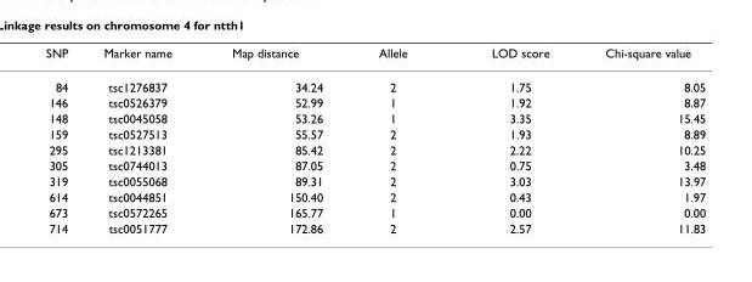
<table><thead><tr><td>SNP</td><td>Marker name</td><td>Map distance</td><td>Allele</td><td>LOD score</td><td>Chi-square value</td></tr></thead><tbody><tr><td>84</td><td>tsc1276837</td><td>34.24</td><td>2</td><td>1.75</td><td>8.05</td></tr><tr><td>146</td><td>tsc0526379</td><td>52.99</td><td>1</td><td>1.92</td><td>8.87</td></tr><tr><td>148</td><td>tsc0045058</td><td>53.26</td><td>1</td><td>3.35</td><td>15.45</td></tr><tr><td>159</td><td>tsc0527513</td><td>55.57</td><td>2</td><td>1.93</td><td>8.89</td></tr><tr><td>295</td><td>tsc1213381</td><td>85.42</td><td>2</td><td>2.22</td><td>10.25</td></tr><tr><td>305</td><td>tsc0744013</td><td>87.05</td><td>2</td><td>0.75</td><td>3.48</td></tr><tr><td>319</td><td>tsc0055068</td><td>89.31</td><td>2</td><td>3.03</td><td>13.97</td></tr><tr><td>614</td><td>tsc0044851</td><td>150.40</td><td>2</td><td>0.43</td><td>1.97</td></tr><tr><td>673</td><td>tsc0572265</td><td>165.77</td><td>1</td><td>0.00</td><td>0.00</td></tr><tr><td>714</td><td>tsc0051777</td><td>172.86</td><td>2</td><td>2.57</td><td>11.83</td></tr></tbody></table>